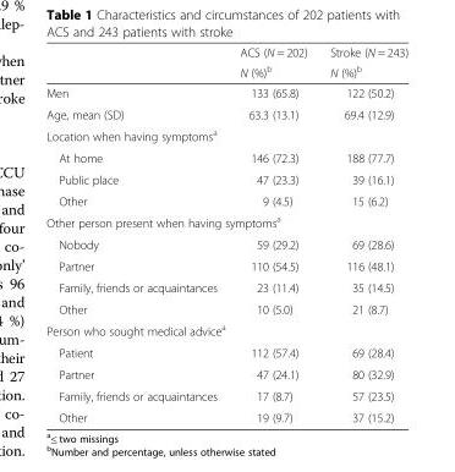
<table><thead><tr><td rowspan="2"></td><td rowspan="2">ACS (N = 202) N (%)<sup>b</sup></td><td rowspan="2">Stroke (N = 243) N (%)<sup>b</sup></td></tr><tr></tr></thead><tbody><tr><td>Men</td><td>133 (65.8)</td><td>122 (50.2)</td></tr><tr><td>Age, mean (SD)</td><td>63.3 (13.1)</td><td>69.4 (12.9)</td></tr><tr><td colspan="3">Location when having symptoms<sup>a</sup></td></tr><tr><td>At home</td><td>146 (72.3)</td><td>188 (77.7)</td></tr><tr><td>Public place</td><td>47 (23.3)</td><td>39 (16.1)</td></tr><tr><td>Other</td><td>9 (4.5)</td><td>15 (6.2)</td></tr><tr><td colspan="3">Other person present when having symptoms<sup>a</sup></td></tr><tr><td>Nobody</td><td>59 (29.2)</td><td>69 (28.6)</td></tr><tr><td>Partner</td><td>110 (54.5)</td><td>116 (48.1)</td></tr><tr><td>Family, friends or acquaintances</td><td>23 (11.4)</td><td>35 (14.5)</td></tr><tr><td>Other</td><td>10 (5.0)</td><td>21 (8.7)</td></tr><tr><td colspan="3">Person who sought medical advice<sup>a</sup></td></tr><tr><td>Patient</td><td>112 (57.4)</td><td>69 (28.4)</td></tr><tr><td>Partner</td><td>47 (24.1)</td><td>80 (32.9)</td></tr><tr><td>Family, friends or acquaintances</td><td>17 (8.7)</td><td>57 (23.5)</td></tr><tr><td>Other</td><td>19 (9.7)</td><td>37 (15.2)</td></tr></tbody></table>